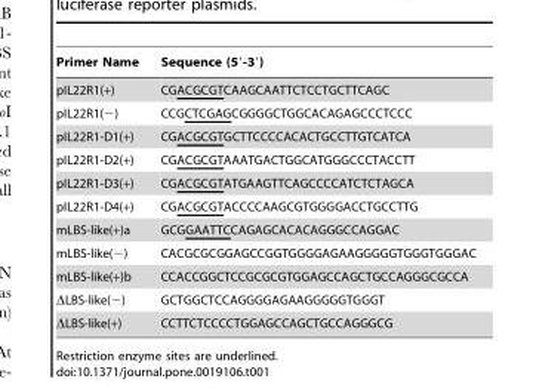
<table><thead><tr><td>Primer Name</td><td>Sequence (5′-3′)</td></tr></thead><tbody><tr><td>pIL22R1(+)</td><td>CGACGCGTCAAGCAATTCTCCTGCTTCAGC</td></tr><tr><td>pIL22R1(−)</td><td>CCGCTCGAGCGGGGCTGGCACAGAGCCCTCCC</td></tr><tr><td>pIL22R1-D1(+)</td><td>CGACGCGTGCTTCCCCACACTGCCTTGTCATCA</td></tr><tr><td>pIL22R1-D2(+)</td><td>CGACGCGTAAATGACTGGCATGGGCCCTACCTT</td></tr><tr><td>pIL22R1-D3(+)</td><td>CGACGCGTATGAAGTTCAGCCCCATCTCTAGCA</td></tr><tr><td>pIL22R1-D4(+)</td><td>CGACGCGTACCCCAAGCGTGGGGACCTGCCTTG</td></tr><tr><td>mLBS-like(+)a</td><td>GCGGAATTCCAGAGCACACAGGGCCAGGAC</td></tr><tr><td>mLBS-like(−)</td><td>CACGCGCGGAGCCGGTGGGGAGAAGGGGGTGGGTGGGAC</td></tr><tr><td>mLBS-like(+)b</td><td>CCACCGGCTCCGCGCGTGGAGCCAGCTGCCAGGGCGCCA</td></tr><tr><td>ΔLBS-like(−)</td><td>GCTGGCTCCAGGGGAGAAGGGGGTGGGT</td></tr><tr><td>ΔLBS-like(+)</td><td>CCTTCTCCCCTGGAGCCAGCTGCCAGGGCG</td></tr></tbody></table>